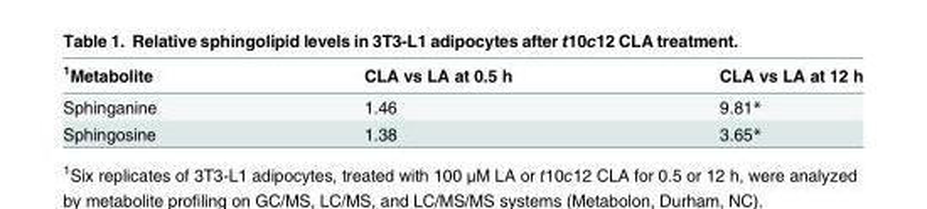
<table><thead><tr><td><sup>1</sup>Metabolite</td><td>CLA vs LA at 0.5 h</td><td>CLA vs LA at 12 h</td></tr></thead><tbody><tr><td>Sphinganine</td><td>1.46</td><td>9.81*</td></tr><tr><td>Sphingosine</td><td>1.38</td><td>3.65*</td></tr></tbody></table>